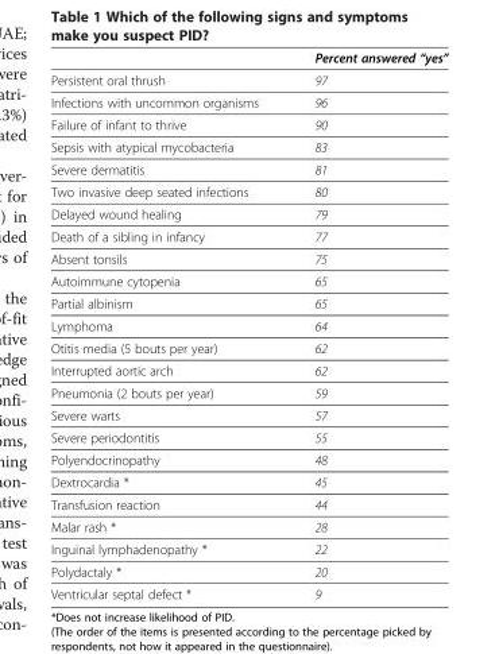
<table><thead><tr><td></td><td>Percent answered “yes”</td></tr></thead><tbody><tr><td>Persistent oral thrush</td><td>97</td></tr><tr><td>Infections with uncommon organisms</td><td>96</td></tr><tr><td>Failure of infant to thrive</td><td>90</td></tr><tr><td>Sepsis with atypical mycobacteria</td><td>83</td></tr><tr><td>Severe dermatitis</td><td>81</td></tr><tr><td>Two invasive deep seated infections</td><td>80</td></tr><tr><td>Delayed wound healing</td><td>79</td></tr><tr><td>Death of a sibling in infancy</td><td>77</td></tr><tr><td>Absent tonsils</td><td>75</td></tr><tr><td>Autoimmune cytopenia</td><td>65</td></tr><tr><td>Partial albinism</td><td>65</td></tr><tr><td>Lymphoma</td><td>64</td></tr><tr><td>Otitis media (5 bouts per year)</td><td>62</td></tr><tr><td>Interrupted aortic arch</td><td>62</td></tr><tr><td>Pneumonia (2 bouts per year)</td><td>59</td></tr><tr><td>Severe warts</td><td>57</td></tr><tr><td>Severe periodontitis</td><td>55</td></tr><tr><td>Polyendocrinopathy</td><td>48</td></tr><tr><td>Dextrocardia *</td><td>45</td></tr><tr><td>Transfusion reaction</td><td>44</td></tr><tr><td>Malar rash *</td><td>28</td></tr><tr><td>Inguinal lymphadenopathy *</td><td>22</td></tr><tr><td>Polydactaly *</td><td>20</td></tr><tr><td>Ventricular septal defect *</td><td>9</td></tr></tbody></table>